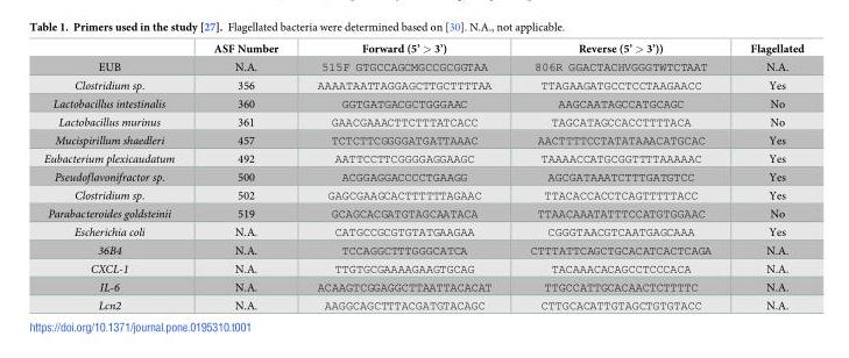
<table><thead><tr><td></td><td>ASF Number</td><td>Forward (5’ &gt; 3’)</td><td>Reverse (5’ &gt; 3’))</td><td>Flagellated</td></tr></thead><tbody><tr><td>EUB</td><td>N.A.</td><td>515F GTGCCAGCMGCCGCGGTAA</td><td>806R GGACTACHVGGGTWTCTAAT</td><td>N.A.</td></tr><tr><td>Clostridium sp.</td><td>356</td><td>AAAATAATTAGGAGCTTGCTTTTAA</td><td>TTAGAAGATGCCTCCTAAGAACC</td><td>Yes</td></tr><tr><td>Lactobacillus intestinalis</td><td>360</td><td>GGTGATGACGCTGGGAAC</td><td>AAGCAATAGCCATGCAGC</td><td>No</td></tr><tr><td>Lactobacillus murinus</td><td>361</td><td>GAACGAAACTTCTTTATCACC</td><td>TAGCATAGCCACCTTTTACA</td><td>No</td></tr><tr><td>Mucispirillum shaedleri</td><td>457</td><td>TCTCTTCGGGGATGATTAAAC</td><td>AACTTTTCCTATATAAACATGCAC</td><td>Yes</td></tr><tr><td>Eubacterium plexicaudatum</td><td>492</td><td>AATTCCTTCGGGGAGGAAGC</td><td>TAAAACCATGCGGTTTTAAAAAC</td><td>Yes</td></tr><tr><td>Pseudoflavonifractor sp.</td><td>500</td><td>ACGGAGGACCCCTGAAGG</td><td>AGCGATAAATCTTTGATGTCC</td><td>Yes</td></tr><tr><td>Clostridium sp.</td><td>502</td><td>GAGCGAAGCACTTTTTTAGAAC</td><td>TTACACCACCTCAGTTTTTACC</td><td>Yes</td></tr><tr><td>Parabacteroides goldsteinii</td><td>519</td><td>GCAGCACGATGTAGCAATACA</td><td>TTAACAAATATTTCCATGTGGAAC</td><td>No</td></tr><tr><td>Escherichia coli</td><td>N.A.</td><td>CATGCCGCGTGTATGAAGAA</td><td>CGGGTAACGTCAATGAGCAAA</td><td>Yes</td></tr><tr><td>36B4</td><td>N.A.</td><td>TCCAGGCTTTGGGCATCA</td><td>CTTTATTCAGCTGCACATCACTCAGA</td><td>N.A.</td></tr><tr><td>CXCL-1</td><td>N.A.</td><td>TTGTGCGAAAAGAAGTGCAG</td><td>TACAAACACAGCCTCCCACA</td><td>N.A.</td></tr><tr><td>IL-6</td><td>N.A.</td><td>ACAAGTCGGAGGCTTAATTACACAT</td><td>TTGCCATTGCACAACTCTTTTC</td><td>N.A.</td></tr><tr><td>Lcn2</td><td>N.A.</td><td>AAGGCAGCTTTACGATGTACAGC</td><td>CTTGCACATTGTAGCTGTGTACC</td><td>N.A.</td></tr></tbody></table>